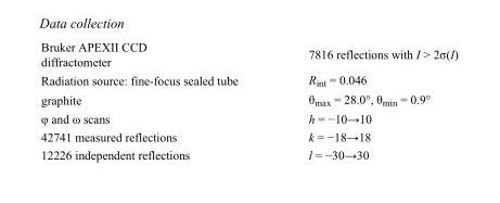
<table><tbody><tr><td>Bruker APEXII CCD diffractometer</td><td>7816 reflections with I &gt; 2σ(I)</td></tr><tr><td>Radiation source: fine-focus sealed tube</td><td>R<sub>int</sub> = 0.046</td></tr><tr><td>graphite</td><td>θ<sub>max</sub> = 28.0°, θ<sub>min</sub> = 0.9°</td></tr><tr><td>φ and ω scans</td><td>h = −10→10</td></tr><tr><td>42741 measured reflections</td><td>k = −18→18</td></tr><tr><td>12226 independent reflections</td><td>l = −30→30</td></tr></tbody></table>